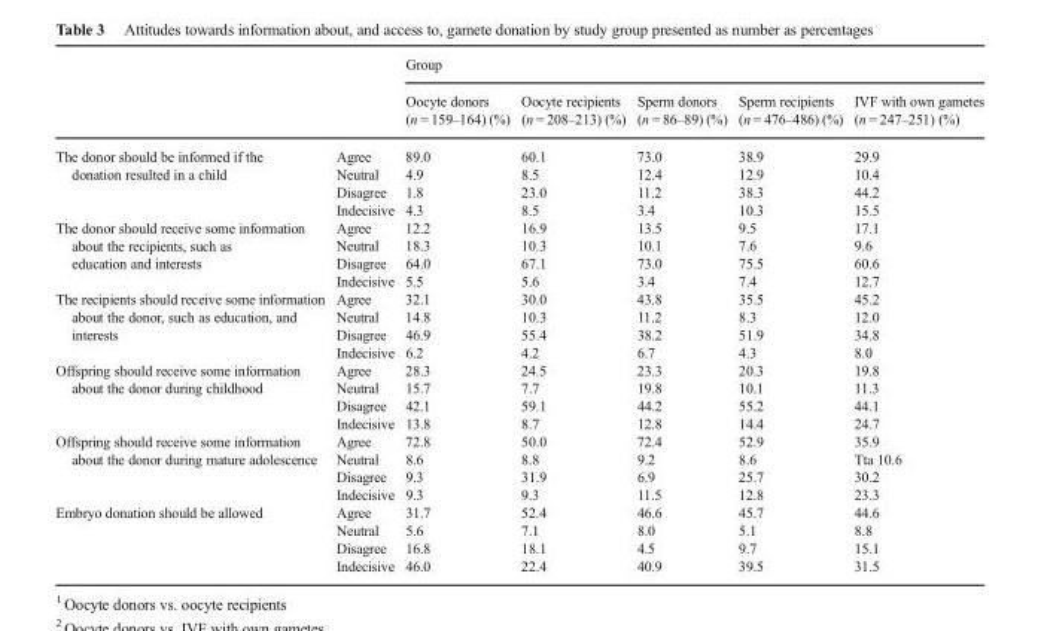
<table><thead><tr><td rowspan="3"></td><td rowspan="3"></td><td colspan="5">Group</td></tr><tr><td rowspan="2">Oocyte donors (n = 159–164) (%)</td><td rowspan="2">Oocyte recipients (n = 208–213) (%)</td><td rowspan="2">Sperm donors (n = 86–89) (%)</td><td rowspan="2">Sperm recipients (n = 476–486) (%)</td><td rowspan="2">IVF with own gametes (n = 247–251) (%)</td></tr><tr></tr></thead><tbody><tr><td rowspan="4">The donor should be informed if the donation resulted in a child</td><td>Agree</td><td>89.0</td><td>60.1</td><td>73.0</td><td>38.9</td><td>29.9</td></tr><tr><td>Neutral</td><td>4.9</td><td>8.5</td><td>12.4</td><td>12.9</td><td>10.4</td></tr><tr><td>Disagree</td><td>1.8</td><td>23.0</td><td>11.2</td><td>38.3</td><td>44.2</td></tr><tr><td>Indecisive</td><td>4.3</td><td>8.5</td><td>3.4</td><td>10.3</td><td>15.5</td></tr><tr><td rowspan="4">The donor should receive some information about the recipients, such as education and interests</td><td>Agree</td><td>12.2</td><td>16.9</td><td>13.5</td><td>9.5</td><td>17.1</td></tr><tr><td>Neutral</td><td>18.3</td><td>10.3</td><td>10.1</td><td>7.6</td><td>9.6</td></tr><tr><td>Disagree</td><td>64.0</td><td>67.1</td><td>73.0</td><td>75.5</td><td>60.6</td></tr><tr><td>Indecisive</td><td>5.5</td><td>5.6</td><td>3.4</td><td>7.4</td><td>12.7</td></tr><tr><td rowspan="4">The recipients should receive some information about the donor, such as education, and interests</td><td>Agree</td><td>32.1</td><td>30.0</td><td>43.8</td><td>35.5</td><td>45.2</td></tr><tr><td>Neutral</td><td>14.8</td><td>10.3</td><td>11.2</td><td>8.3</td><td>12.0</td></tr><tr><td>Disagree</td><td>46.9</td><td>55.4</td><td>38.2</td><td>51.9</td><td>34.8</td></tr><tr><td>Indecisive</td><td>6.2</td><td>4.2</td><td>6.7</td><td>4.3</td><td>8.0</td></tr><tr><td rowspan="4">Offspring should receive some information about the donor during childhood</td><td>Agree</td><td>28.3</td><td>24.5</td><td>23.3</td><td>20.3</td><td>19.8</td></tr><tr><td>Neutral</td><td>15.7</td><td>7.7</td><td>19.8</td><td>10.1</td><td>11.3</td></tr><tr><td>Disagree</td><td>42.1</td><td>59.1</td><td>44.2</td><td>55.2</td><td>44.1</td></tr><tr><td>Indecisive</td><td>13.8</td><td>8.7</td><td>12.8</td><td>14.4</td><td>24.7</td></tr><tr><td rowspan="4">Offspring should receive some information about the donor during mature adolescence</td><td>Agree</td><td>72.8</td><td>50.0</td><td>72.4</td><td>52.9</td><td>35.9</td></tr><tr><td>Neutral</td><td>8.6</td><td>8.8</td><td>9.2</td><td>8.6</td><td>Tta 10.6</td></tr><tr><td>Disagree</td><td>9.3</td><td>31.9</td><td>6.9</td><td>25.7</td><td>30.2</td></tr><tr><td>Indecisive</td><td>9.3</td><td>9.3</td><td>11.5</td><td>12.8</td><td>23.3</td></tr><tr><td rowspan="4">Embryo donation should be allowed</td><td>Agree</td><td>31.7</td><td>52.4</td><td>46.6</td><td>45.7</td><td>44.6</td></tr><tr><td>Neutral</td><td>5.6</td><td>7.1</td><td>8.0</td><td>5.1</td><td>8.8</td></tr><tr><td>Disagree</td><td>16.8</td><td>18.1</td><td>4.5</td><td>9.7</td><td>15.1</td></tr><tr><td>Indecisive</td><td>46.0</td><td>22.4</td><td>40.9</td><td>39.5</td><td>31.5</td></tr></tbody></table>